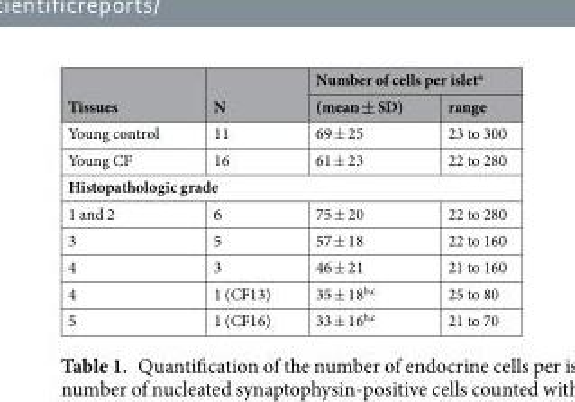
<table><thead><tr><td rowspan="2">Tissues</td><td rowspan="2">N</td><td colspan="2">Number of cells per islet<sup>a</sup></td></tr><tr><td>(mean ± SD)</td><td>range</td></tr></thead><tbody><tr><td>Young control</td><td>11</td><td>69 ± 25</td><td>23 to 300</td></tr><tr><td>Young CF</td><td>16</td><td>61 ± 23</td><td>22 to 280</td></tr><tr><td colspan="4">Histopathologic grade</td></tr><tr><td>1 and 2</td><td>6</td><td>75 ± 20</td><td>22 to 280</td></tr><tr><td>3</td><td>5</td><td>57 ± 18</td><td>22 to 160</td></tr><tr><td>4</td><td>3</td><td>46 ± 21</td><td>21 to 160</td></tr><tr><td>4</td><td>1 (CF13)</td><td>35 ± 18<sup>b,c</sup></td><td>25 to 80</td></tr><tr><td>5</td><td>1 (CF16)</td><td>33 ± 16<sup>b,c</sup></td><td>21 to 70</td></tr></tbody></table>